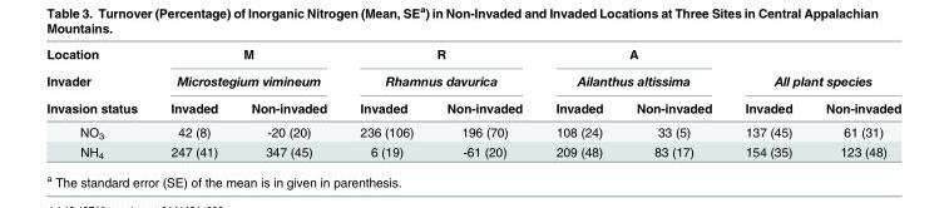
<table><thead><tr><td rowspan="3">Location Invader Invasion status</td><td rowspan="2" colspan="2">M Microstegium vimineum</td><td rowspan="2" colspan="2">R Rhamnus davurica</td><td rowspan="2" colspan="2">A Ailanthus altissima</td><td></td><td></td></tr><tr><td colspan="2">All plant species</td></tr><tr><td>Invaded</td><td>Non-invaded</td><td>Invaded</td><td>Non-invaded</td><td>Invaded</td><td>Non-invaded</td><td>Invaded</td><td>Non-invaded</td></tr></thead><tbody><tr><td>NO<sub>3</sub></td><td>42 (8)</td><td>-20 (20)</td><td>236 (106)</td><td>196 (70)</td><td>108 (24)</td><td>33 (5)</td><td>137 (45)</td><td>61 (31)</td></tr><tr><td>NH<sub>4</sub></td><td>247 (41)</td><td>347 (45)</td><td>6 (19)</td><td>-61 (20)</td><td>209 (48)</td><td>83 (17)</td><td>154 (35)</td><td>123 (48)</td></tr></tbody></table>